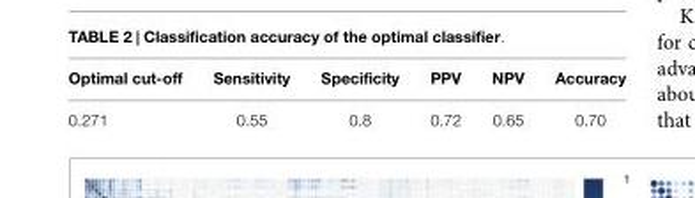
<table><thead><tr><td>Optimal cut-off</td><td>Sensitivity</td><td>Specificity</td><td>PPV</td><td>NPV</td><td>Accuracy</td></tr></thead><tbody><tr><td>0.271</td><td>0.55</td><td>0.8</td><td>0.72</td><td>0.65</td><td>0.70</td></tr></tbody></table>